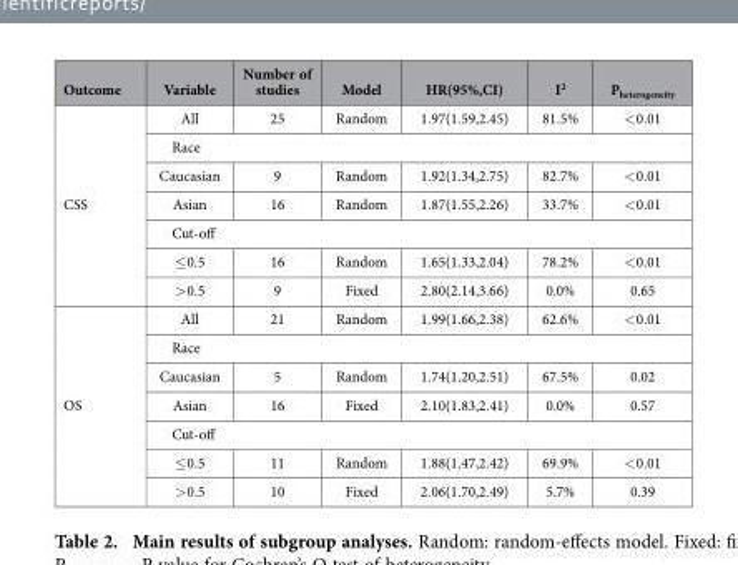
<table><thead><tr><td>Outcome</td><td>Variable</td><td>Number of studies</td><td>Model</td><td>HR(95%,CI)</td><td>I<sup>2</sup></td><td>P<sub>heterogeneity</sub></td></tr></thead><tbody><tr><td rowspan="7">CSS</td><td>All</td><td>25</td><td>Random</td><td>1.97(1.59,2.45)</td><td>81.5%</td><td>&lt; 0.01</td></tr><tr><td>Race</td><td></td><td></td><td></td><td></td><td></td></tr><tr><td>Caucasian</td><td>9</td><td>Random</td><td>1.92(1.34,2.75)</td><td>82.7%</td><td>&lt; 0.01</td></tr><tr><td>Asian</td><td>16</td><td>Random</td><td>1.87(1.55,2.26)</td><td>33.7%</td><td>&lt; 0.01</td></tr><tr><td>Cut-off</td><td></td><td></td><td></td><td></td><td></td></tr><tr><td>≤ 0.5</td><td>16</td><td>Random</td><td>1.65(1.33,2.04)</td><td>78.2%</td><td>&lt; 0.01</td></tr><tr><td>&gt; 0.5</td><td>9</td><td>Fixed</td><td>2.80(2.14,3.66)</td><td>0.0%</td><td>0.65</td></tr><tr><td rowspan="7">OS</td><td>All</td><td>21</td><td>Random</td><td>1.99(1.66,2.38)</td><td>62.6%</td><td>&lt; 0.01</td></tr><tr><td>Race</td><td></td><td></td><td></td><td></td><td></td></tr><tr><td>Caucasian</td><td>5</td><td>Random</td><td>1.74(1.20,2.51)</td><td>67.5%</td><td>0.02</td></tr><tr><td>Asian</td><td>16</td><td>Fixed</td><td>2.10(1.83,2.41)</td><td>0.0%</td><td>0.57</td></tr><tr><td>Cut-off</td><td></td><td></td><td></td><td></td><td></td></tr><tr><td>≤ 0.5</td><td>11</td><td>Random</td><td>1.88(1.47,2.42)</td><td>69.9%</td><td>&lt; 0.01</td></tr><tr><td>&gt; 0.5</td><td>10</td><td>Fixed</td><td>2.06(1.70,2.49)</td><td>5.7%</td><td>0.39</td></tr></tbody></table>